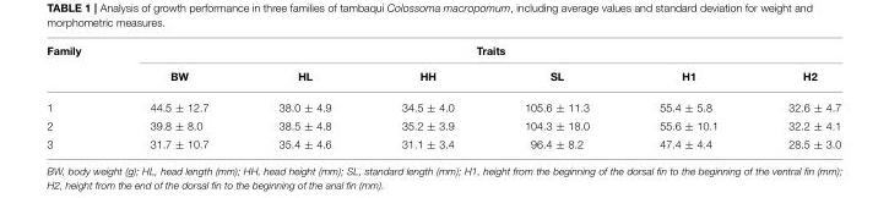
<table><thead><tr><td rowspan="2">Family</td><td colspan="6">Traits</td></tr><tr><td>BW</td><td>HL</td><td>HH</td><td>SL</td><td>H1</td><td>H2</td></tr></thead><tbody><tr><td>1</td><td>44.5 ± 12.7</td><td>38.0 ± 4.9</td><td>34.5 ± 4.0</td><td>105.6 ± 11.3</td><td>55.4 ± 5.8</td><td>32.6 ± 4.7</td></tr><tr><td>2</td><td>39.8 ± 8.0</td><td>38.5 ± 4.8</td><td>35.2 ± 3.9</td><td>104.3 ± 18.0</td><td>55.6 ± 10.1</td><td>32.2 ± 4.1</td></tr><tr><td>3</td><td>31.7 ± 10.7</td><td>35.4 ± 4.6</td><td>31.1 ± 3.4</td><td>96.4 ± 8.2</td><td>47.4 ± 4.4</td><td>28.5 ± 3.0</td></tr></tbody></table>